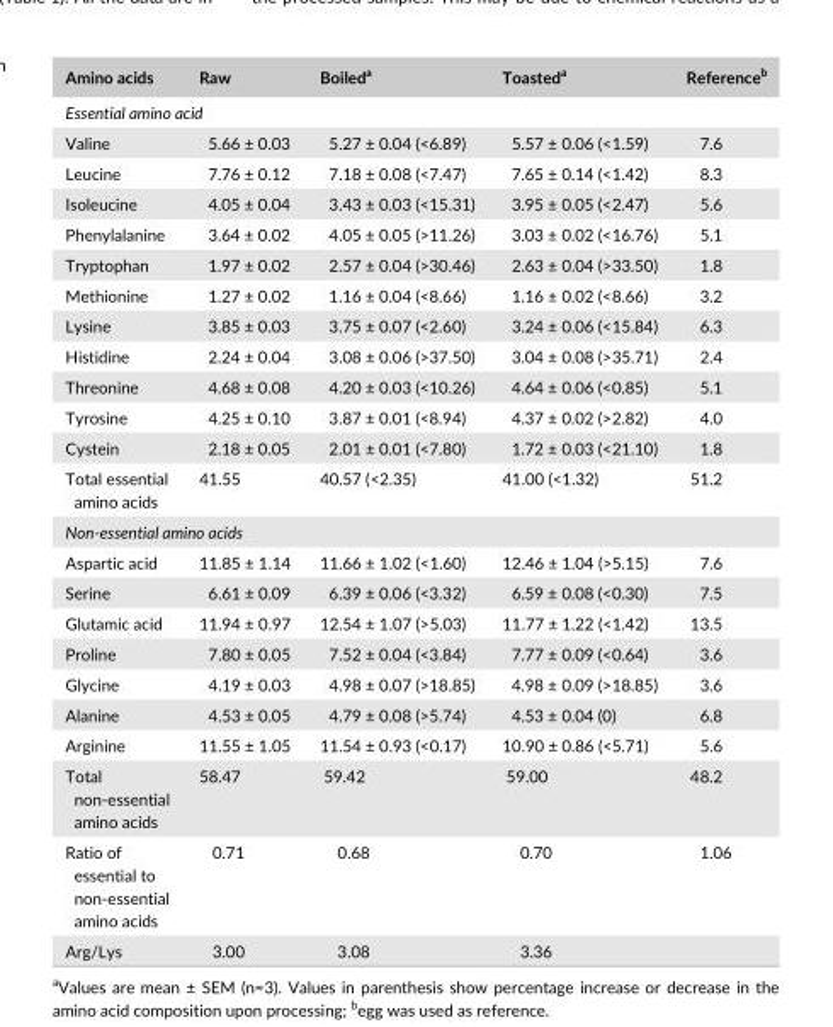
<table><thead><tr><td>Amino acids</td><td>Raw</td><td>Boiled<sup>a</sup></td><td>Toasted<sup>a</sup></td><td>Reference<sup>b</sup></td></tr></thead><tbody><tr><td colspan="5">Essential amino acid</td></tr><tr><td>Valine</td><td>5.66 ± 0.03</td><td>5.27 ± 0.04 (&lt;6.89)</td><td>5.57 ± 0.06 (&lt;1.59)</td><td>7.6</td></tr><tr><td>Leucine</td><td>7.76 ± 0.12</td><td>7.18 ± 0.08 (&lt;7.47)</td><td>7.65 ± 0.14 (&lt;1.42)</td><td>8.3</td></tr><tr><td>Isoleucine</td><td>4.05 ± 0.04</td><td>3.43 ± 0.03 (&lt;15.31)</td><td>3.95 ± 0.05 (&lt;2.47)</td><td>5.6</td></tr><tr><td>Phenylalanine</td><td>3.64 ± 0.02</td><td>4.05 ± 0.05 (&gt;11.26)</td><td>3.03 ± 0.02 (&lt;16.76)</td><td>5.1</td></tr><tr><td>Tryptophan</td><td>1.97 ± 0.02</td><td>2.57 ± 0.04 (&gt;30.46)</td><td>2.63 ± 0.04 (&gt;33.50)</td><td>1.8</td></tr><tr><td>Methionine</td><td>1.27 ± 0.02</td><td>1.16 ± 0.04 (&lt;8.66)</td><td>1.16 ± 0.02 (&lt;8.66)</td><td>3.2</td></tr><tr><td>Lysine</td><td>3.85 ± 0.03</td><td>3.75 ± 0.07 (&lt;2.60)</td><td>3.24 ± 0.06 (&lt;15.84)</td><td>6.3</td></tr><tr><td>Histidine</td><td>2.24 ± 0.04</td><td>3.08 ± 0.06 (&gt;37.50)</td><td>3.04 ± 0.08 (&gt;35.71)</td><td>2.4</td></tr><tr><td>Threonine</td><td>4.68 ± 0.08</td><td>4.20 ± 0.03 (&lt;10.26)</td><td>4.64 ± 0.06 (&lt;0.85)</td><td>5.1</td></tr><tr><td>Tyrosine</td><td>4.25 ± 0.10</td><td>3.87 ± 0.01 (&lt;8.94)</td><td>4.37 ± 0.02 (&gt;2.82)</td><td>4.0</td></tr><tr><td>Cystein</td><td>2.18 ± 0.05</td><td>2.01 ± 0.01 (&lt;7.80)</td><td>1.72 ± 0.03 (&lt;21.10)</td><td>1.8</td></tr><tr><td>Total essential amino acids</td><td>41.55</td><td>40.57 (&lt;2.35)</td><td>41.00 (&lt;1.32)</td><td>51.2</td></tr><tr><td colspan="5">Non-essential amino acids</td></tr><tr><td>Aspartic acid</td><td>11.85 ± 1.14</td><td>11.66 ± 1.02 (&lt;1.60)</td><td>12.46 ± 1.04 (&gt;5.15)</td><td>7.6</td></tr><tr><td>Serine</td><td>6.61 ± 0.09</td><td>6.39 ± 0.06 (&lt;3.32)</td><td>6.59 ± 0.08 (&lt;0.30)</td><td>7.5</td></tr><tr><td>Glutamic acid</td><td>11.94 ± 0.97</td><td>12.54 ± 1.07 (&gt;5.03)</td><td>11.77 ± 1.22 (&lt;1.42)</td><td>13.5</td></tr><tr><td>Proline</td><td>7.80 ± 0.05</td><td>7.52 ± 0.04 (&lt;3.84)</td><td>7.77 ± 0.09 (&lt;0.64)</td><td>3.6</td></tr><tr><td>Glycine</td><td>4.19 ± 0.03</td><td>4.98 ± 0.07 (&gt;18.85)</td><td>4.98 ± 0.09 (&gt;18.85)</td><td>3.6</td></tr><tr><td>Alanine</td><td>4.53 ± 0.05</td><td>4.79 ± 0.08 (&gt;5.74)</td><td>4.53 ± 0.04 (0)</td><td>6.8</td></tr><tr><td>Arginine</td><td>11.55 ± 1.05</td><td>11.54 ± 0.93 (&lt;0.17)</td><td>10.90 ± 0.86 (&lt;5.71)</td><td>5.6</td></tr><tr><td>Total non- essential amino acids</td><td>58.47</td><td>59.42</td><td>59.00</td><td>48.2</td></tr><tr><td>Ratio of essential to non- essential amino acids</td><td>0.71</td><td>0.68</td><td>0.70</td><td>1.06</td></tr><tr><td>Arg/Lys</td><td>3.00</td><td>3.08</td><td>3.36</td><td></td></tr></tbody></table>